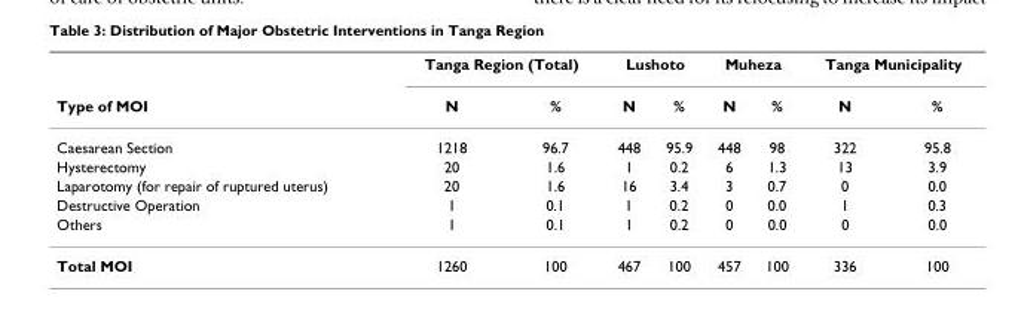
<table><thead><tr><td rowspan="2">Type of MOI</td><td colspan="2">Tanga Region (Total)</td><td colspan="2">Lushoto</td><td colspan="2">Muheza</td><td colspan="2">Tanga Municipality</td></tr><tr><td>N</td><td>%</td><td>N</td><td>%</td><td>N</td><td>%</td><td>N</td><td>%</td></tr></thead><tbody><tr><td>Caesarean Section</td><td>1218</td><td>96.7</td><td>448</td><td>95.9</td><td>448</td><td>98</td><td>322</td><td>95.8</td></tr><tr><td>Hysterectomy</td><td>20</td><td>1.6</td><td>1</td><td>0.2</td><td>6</td><td>1.3</td><td>13</td><td>3.9</td></tr><tr><td>Laparotomy (for repair of ruptured uterus)</td><td>20</td><td>1.6</td><td>16</td><td>3.4</td><td>3</td><td>0.7</td><td>0</td><td>0.0</td></tr><tr><td>Destructive Operation</td><td>1</td><td>0.1</td><td>1</td><td>0.2</td><td>0</td><td>0.0</td><td>1</td><td>0.3</td></tr><tr><td>Others</td><td>1</td><td>0.1</td><td>1</td><td>0.2</td><td>0</td><td>0.0</td><td>0</td><td>0.0</td></tr><tr><td>Total MOI</td><td>1260</td><td>100</td><td>467</td><td>100</td><td>457</td><td>100</td><td>336</td><td>100</td></tr></tbody></table>